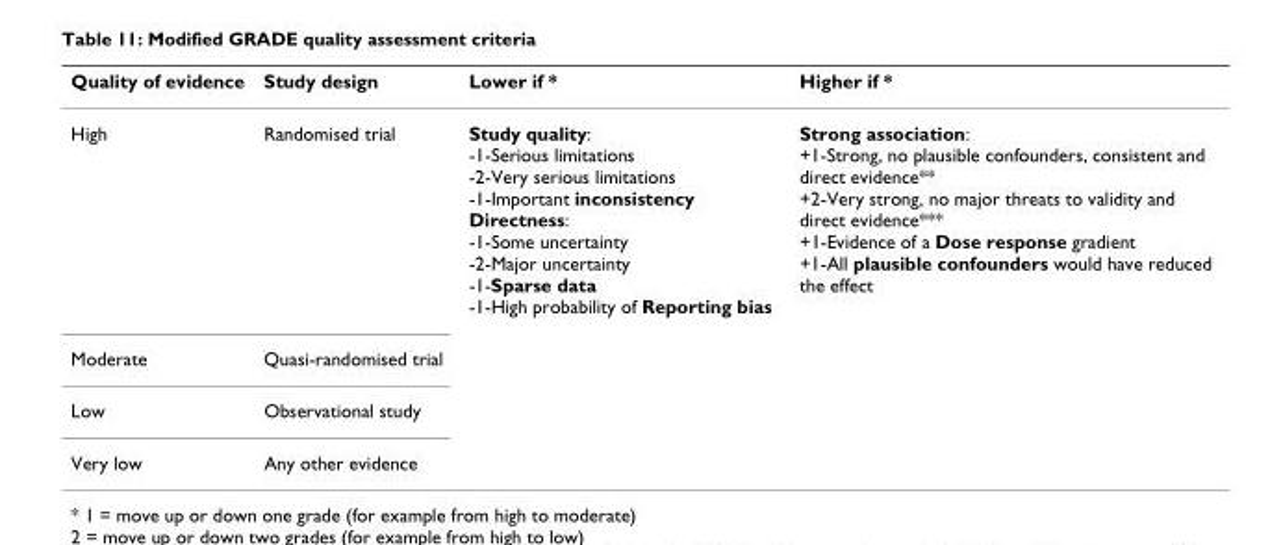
<table><thead><tr><td>Quality of evidence</td><td>Study design</td><td>Lower if *</td><td>Higher if *</td></tr></thead><tbody><tr><td>High</td><td>Randomised trial</td><td>Study quality: -1-Serious limitations -2-Very serious limitations -1-Important inconsistency Directness: -1-Some uncertainty -2-Major uncertainty -1-Sparse data -1-High probability of Reporting bias</td><td>Strong association: +1-Strong, no plausible confounders, consistent and direct evidence** +2-Very strong, no major threats to validity and direct evidence*** +1-Evidence of a Dose response gradient +1-All plausible confounders would have reduced the effect</td></tr><tr><td>Moderate</td><td>Quasi-randomised trial</td><td></td><td></td></tr><tr><td>Low</td><td>Observational study</td><td></td><td></td></tr><tr><td>Very low</td><td>Any other evidence</td><td></td><td></td></tr></tbody></table>